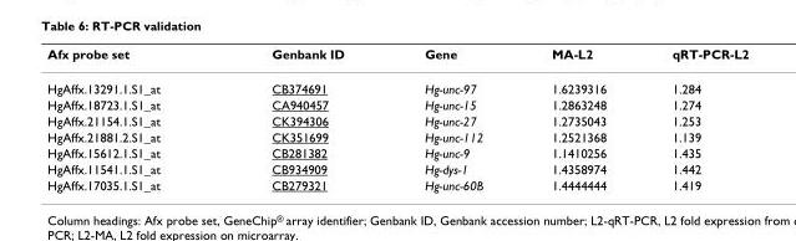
<table><thead><tr><td>Afx probe set</td><td>Genbank ID</td><td>Gene</td><td>MA-L2</td><td>qRT-PCR-L2</td></tr></thead><tbody><tr><td>HgAffx.13291.1.S1_at</td><td>CB374691</td><td>Hg-unc-97</td><td>1.6239316</td><td>1.284</td></tr><tr><td>HgAffx.18723.1.S1_at</td><td>CA940457</td><td>Hg-unc-15</td><td>1.2863248</td><td>1.274</td></tr><tr><td>HgAffx.21154.1.S1_at</td><td>CK394306</td><td>Hg-unc-27</td><td>1.2735043</td><td>1.253</td></tr><tr><td>HgAffx.21881.2.S1_at</td><td>CK351699</td><td>Hg-unc-112</td><td>1.2521368</td><td>1.139</td></tr><tr><td>HgAffx.15612.1.S1_at</td><td>CB281382</td><td>Hg-unc-9</td><td>1.1410256</td><td>1.435</td></tr><tr><td>HgAffx.11541.1.S1_at</td><td>CB934909</td><td>Hg-dys-1</td><td>1.4358974</td><td>1.442</td></tr><tr><td>HgAffx.17035.1.S1_at</td><td>CB279321</td><td>Hg-unc-60B</td><td>1.4444444</td><td>1.419</td></tr></tbody></table>